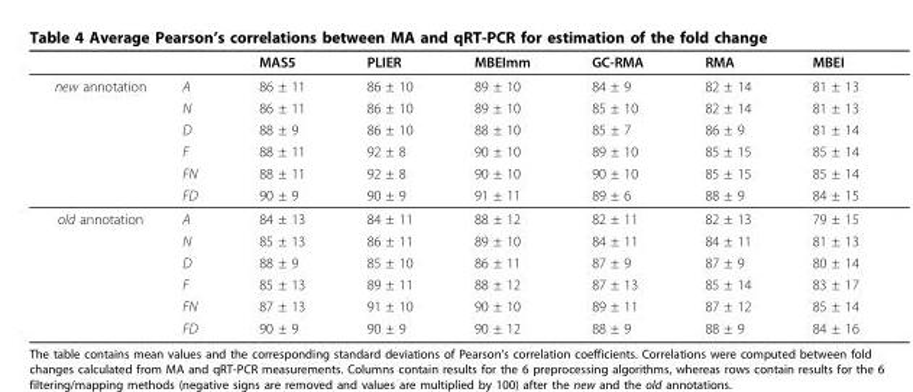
<table><thead><tr><td></td><td></td><td>MAS5</td><td>PLIER</td><td>MBEImm</td><td>GC-RMA</td><td>RMA</td><td>MBEI</td></tr></thead><tbody><tr><td rowspan="6">new annotation</td><td>A</td><td>86 ± 11</td><td>86 ± 10</td><td>89 ± 10</td><td>84 ± 9</td><td>82 ± 14</td><td>81 ± 13</td></tr><tr><td>N</td><td>86 ± 11</td><td>86 ± 10</td><td>89 ± 10</td><td>85 ± 10</td><td>82 ± 14</td><td>81 ± 13</td></tr><tr><td>D</td><td>88 ± 9</td><td>86 ± 10</td><td>88 ± 10</td><td>85 ± 7</td><td>86 ± 9</td><td>81 ± 14</td></tr><tr><td>F</td><td>88 ± 11</td><td>92 ± 8</td><td>90 ± 10</td><td>89 ± 10</td><td>85 ± 15</td><td>85 ± 14</td></tr><tr><td>FN</td><td>88 ± 11</td><td>92 ± 8</td><td>90 ± 10</td><td>90 ± 10</td><td>85 ± 15</td><td>85 ± 14</td></tr><tr><td>FD</td><td>90 ± 9</td><td>90 ± 9</td><td>91 ± 11</td><td>89 ± 6</td><td>88 ± 9</td><td>84 ± 15</td></tr><tr><td rowspan="6">old annotation</td><td>A</td><td>84 ± 13</td><td>84 ± 11</td><td>88 ± 12</td><td>82 ± 11</td><td>82 ± 13</td><td>79 ± 15</td></tr><tr><td>N</td><td>85 ± 13</td><td>86 ± 11</td><td>89 ± 10</td><td>84 ± 11</td><td>84 ± 11</td><td>81 ± 13</td></tr><tr><td>D</td><td>88 ± 9</td><td>85 ± 10</td><td>86 ± 11</td><td>87 ± 9</td><td>87 ± 9</td><td>80 ± 14</td></tr><tr><td>F</td><td>85 ± 13</td><td>89 ± 11</td><td>88 ± 12</td><td>87 ± 13</td><td>85 ± 14</td><td>83 ± 17</td></tr><tr><td>FN</td><td>87 ± 13</td><td>91 ± 10</td><td>90 ± 10</td><td>89 ± 11</td><td>87 ± 12</td><td>85 ± 14</td></tr><tr><td>FD</td><td>90 ± 9</td><td>90 ± 9</td><td>90 ± 12</td><td>88 ± 9</td><td>88 ± 9</td><td>84 ± 16</td></tr></tbody></table>